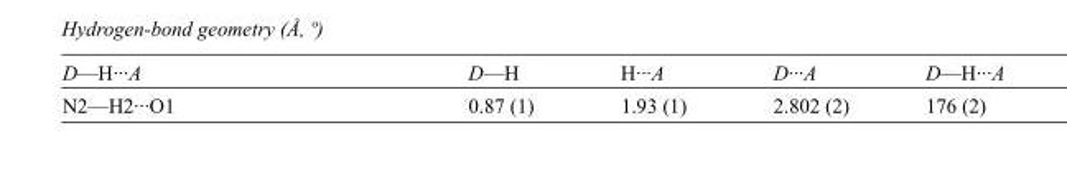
<table><tbody><tr><td>D—H···A</td><td>D—H</td><td>H···A</td><td>D···A</td><td>D—H···A</td></tr><tr><td>N2—H2···O1</td><td>0.87 (1)</td><td>1.93 (1)</td><td>2.802 (2)</td><td>176 (2)</td></tr></tbody></table>